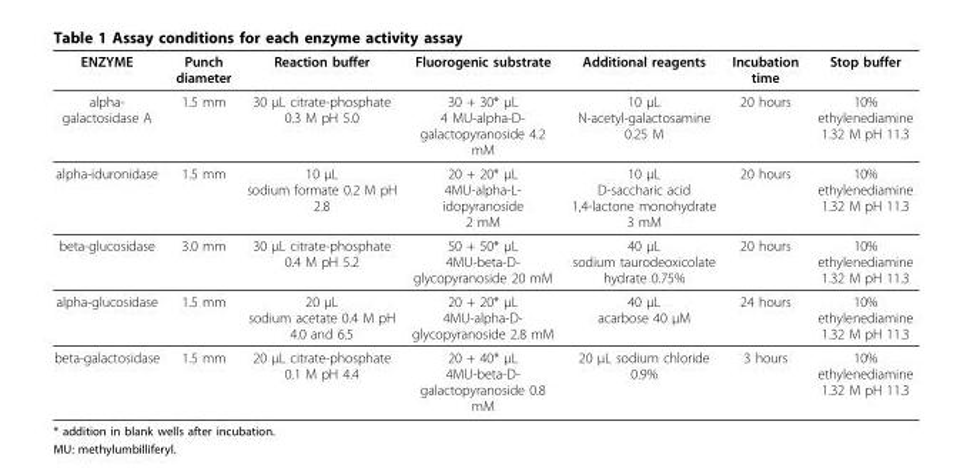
<table><thead><tr><td>ENZYME</td><td>Punch diameter</td><td>Reaction buffer</td><td>Fluorogenic substrate</td><td>Additional reagents</td><td>Incubation time</td><td>Stop buffer</td></tr></thead><tbody><tr><td>alpha- galactosidase A</td><td>1.5 mm</td><td>30 μL citrate-phosphate 0.3 M pH 5.0</td><td>30 + 30* μL 4 MU-alpha-D- galactopyranoside 4.2 mM</td><td>10 μL N-acetyl-galactosamine 0.25 M</td><td>20 hours</td><td>10% ethylenediamine 1.32 M pH 11.3</td></tr><tr><td>alpha-iduronidase</td><td>1.5 mm</td><td>10 μL sodium formate 0.2 M pH 2.8</td><td>20 + 20* μL 4MU-alpha-L- idopyranoside 2 mM</td><td>10 μL D-saccharic acid 1,4-lactone monohydrate 3 mM</td><td>20 hours</td><td>10% ethylenediamine 1.32 M pH 11.3</td></tr><tr><td>beta-glucosidase</td><td>3.0 mm</td><td>30 μL citrate-phosphate 0.4 M pH 5.2</td><td>50 + 50* μL 4MU-beta-D- glycopyranoside 20 mM</td><td>40 μL sodium taurodeoxicolate hydrate 0.75%</td><td>20 hours</td><td>10% ethylenediamine 1.32 M pH 11.3</td></tr><tr><td>alpha-glucosidase</td><td>1.5 mm</td><td>20 μL sodium acetate 0.4 M pH 4.0 and 6.5</td><td>20 + 20* μL 4MU-alpha-D- glycopyranoside 2.8 mM</td><td>40 μL acarbose 40 μM</td><td>24 hours</td><td>10% ethylenediamine 1.32 M pH 11.3</td></tr><tr><td>beta-galactosidase</td><td>1.5 mm</td><td>20 μL citrate-phosphate 0.1 M pH 4.4</td><td>20 + 40* μL 4MU-beta-D- galactopyranoside 0.8 mM</td><td>20 μL sodium chloride 0.9%</td><td>3 hours</td><td>10% ethylenediamine 1.32 M pH 11.3</td></tr></tbody></table>